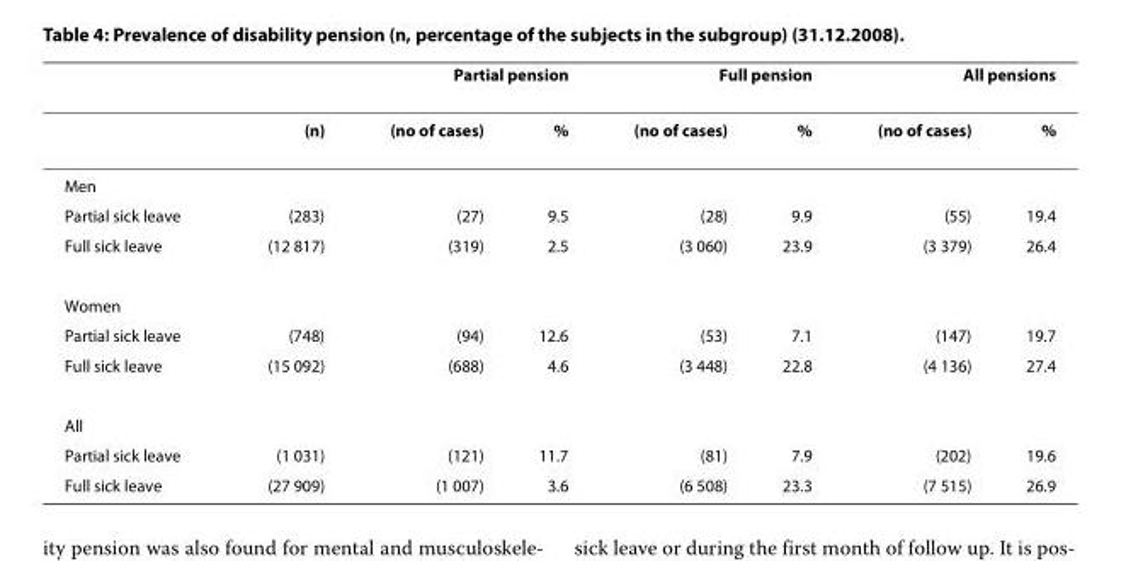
<table><thead><tr><td rowspan="2"></td><td rowspan="2">(n)</td><td colspan="2">Partial pension</td><td colspan="2">Full pension</td><td colspan="2">All pensions</td></tr><tr><td>(no of cases)</td><td>%</td><td>(no of cases)</td><td>%</td><td>(no of cases)</td><td>%</td></tr></thead><tbody><tr><td colspan="8">Men</td></tr><tr><td>Partial sick leave</td><td>(283)</td><td>(27)</td><td>9.5</td><td>(28)</td><td>9.9</td><td>(55)</td><td>19.4</td></tr><tr><td>Full sick leave</td><td>(12 817)</td><td>(319)</td><td>2.5</td><td>(3 060)</td><td>23.9</td><td>(3 379)</td><td>26.4</td></tr><tr><td colspan="8">Women</td></tr><tr><td>Partial sick leave</td><td>(748)</td><td>(94)</td><td>12.6</td><td>(53)</td><td>7.1</td><td>(147)</td><td>19.7</td></tr><tr><td>Full sick leave</td><td>(15 092)</td><td>(688)</td><td>4.6</td><td>(3 448)</td><td>22.8</td><td>(4 136)</td><td>27.4</td></tr><tr><td colspan="8">All</td></tr><tr><td>Partial sick leave</td><td>(1 031)</td><td>(121)</td><td>11.7</td><td>(81)</td><td>7.9</td><td>(202)</td><td>19.6</td></tr><tr><td>Full sick leave</td><td>(27 909)</td><td>(1 007)</td><td>3.6</td><td>(6 508)</td><td>23.3</td><td>(7 515)</td><td>26.9</td></tr></tbody></table>